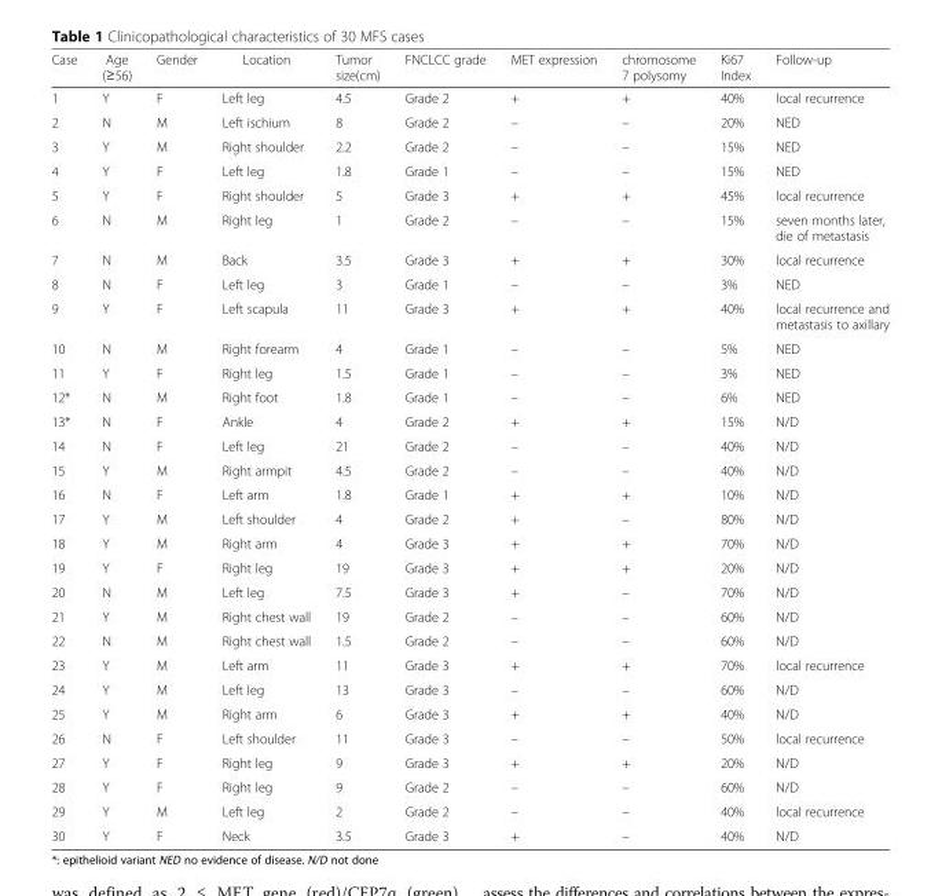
<table><thead><tr><td>Case</td><td>Age (≥56)</td><td>Gender</td><td>Location</td><td>Tumor size(cm)</td><td>FNCLCC grade</td><td>MET expression</td><td>chromosome 7 polysomy</td><td>Ki67 Index</td><td>Follow-up</td></tr></thead><tbody><tr><td>1</td><td>Y</td><td>F</td><td>Left leg</td><td>4.5</td><td>Grade 2</td><td>+</td><td>+</td><td>40%</td><td>local recurrence</td></tr><tr><td>2</td><td>N</td><td>M</td><td>Left ischium</td><td>8</td><td>Grade 2</td><td>–</td><td>–</td><td>20%</td><td>NED</td></tr><tr><td>3</td><td>Y</td><td>M</td><td>Right shoulder</td><td>2.2</td><td>Grade 2</td><td>–</td><td>–</td><td>15%</td><td>NED</td></tr><tr><td>4</td><td>Y</td><td>F</td><td>Left leg</td><td>1.8</td><td>Grade 1</td><td>–</td><td>–</td><td>15%</td><td>NED</td></tr><tr><td>5</td><td>Y</td><td>F</td><td>Right shoulder</td><td>5</td><td>Grade 3</td><td>+</td><td>+</td><td>45%</td><td>local recurrence</td></tr><tr><td>6</td><td>N</td><td>M</td><td>Right leg</td><td>1</td><td>Grade 2</td><td>–</td><td>–</td><td>15%</td><td>seven months later, die of metastasis</td></tr><tr><td>7</td><td>N</td><td>M</td><td>Back</td><td>3.5</td><td>Grade 3</td><td>+</td><td>+</td><td>30%</td><td>local recurrence</td></tr><tr><td>8</td><td>N</td><td>F</td><td>Left leg</td><td>3</td><td>Grade 1</td><td>–</td><td>–</td><td>3%</td><td>NED</td></tr><tr><td>9</td><td>Y</td><td>F</td><td>Left scapula</td><td>11</td><td>Grade 3</td><td>+</td><td>+</td><td>40%</td><td>local recurrence and metastasis to axillary</td></tr><tr><td>10</td><td>N</td><td>M</td><td>Right forearm</td><td>4</td><td>Grade 1</td><td>–</td><td>–</td><td>5%</td><td>NED</td></tr><tr><td>11</td><td>Y</td><td>F</td><td>Right leg</td><td>1.5</td><td>Grade 1</td><td>–</td><td>–</td><td>3%</td><td>NED</td></tr><tr><td>12*</td><td>N</td><td>M</td><td>Right foot</td><td>1.8</td><td>Grade 1</td><td>–</td><td>–</td><td>6%</td><td>NED</td></tr><tr><td>13*</td><td>N</td><td>F</td><td>Ankle</td><td>4</td><td>Grade 2</td><td>+</td><td>+</td><td>15%</td><td>N/D</td></tr><tr><td>14</td><td>N</td><td>F</td><td>Left leg</td><td>21</td><td>Grade 2</td><td>–</td><td>–</td><td>40%</td><td>N/D</td></tr><tr><td>15</td><td>Y</td><td>M</td><td>Right armpit</td><td>4.5</td><td>Grade 2</td><td>–</td><td>–</td><td>40%</td><td>N/D</td></tr><tr><td>16</td><td>N</td><td>F</td><td>Left arm</td><td>1.8</td><td>Grade 1</td><td>+</td><td>+</td><td>10%</td><td>N/D</td></tr><tr><td>17</td><td>Y</td><td>M</td><td>Left shoulder</td><td>4</td><td>Grade 2</td><td>+</td><td>–</td><td>80%</td><td>N/D</td></tr><tr><td>18</td><td>Y</td><td>M</td><td>Right arm</td><td>4</td><td>Grade 3</td><td>+</td><td>+</td><td>70%</td><td>N/D</td></tr><tr><td>19</td><td>Y</td><td>F</td><td>Right leg</td><td>19</td><td>Grade 3</td><td>+</td><td>+</td><td>20%</td><td>N/D</td></tr><tr><td>20</td><td>N</td><td>M</td><td>Left leg</td><td>7.5</td><td>Grade 3</td><td>+</td><td>–</td><td>70%</td><td>N/D</td></tr><tr><td>21</td><td>Y</td><td>M</td><td>Right chest wall</td><td>19</td><td>Grade 2</td><td>–</td><td>–</td><td>60%</td><td>N/D</td></tr><tr><td>22</td><td>N</td><td>M</td><td>Right chest wall</td><td>1.5</td><td>Grade 2</td><td>–</td><td>–</td><td>60%</td><td>N/D</td></tr><tr><td>23</td><td>Y</td><td>M</td><td>Left arm</td><td>11</td><td>Grade 3</td><td>+</td><td>+</td><td>70%</td><td>local recurrence</td></tr><tr><td>24</td><td>Y</td><td>M</td><td>Left leg</td><td>13</td><td>Grade 3</td><td>–</td><td>–</td><td>60%</td><td>N/D</td></tr><tr><td>25</td><td>Y</td><td>M</td><td>Right arm</td><td>6</td><td>Grade 3</td><td>+</td><td>+</td><td>40%</td><td>N/D</td></tr><tr><td>26</td><td>N</td><td>F</td><td>Left shoulder</td><td>11</td><td>Grade 3</td><td>–</td><td>–</td><td>50%</td><td>local recurrence</td></tr><tr><td>27</td><td>Y</td><td>F</td><td>Right leg</td><td>9</td><td>Grade 3</td><td>+</td><td>+</td><td>20%</td><td>N/D</td></tr><tr><td>28</td><td>Y</td><td>F</td><td>Right leg</td><td>9</td><td>Grade 2</td><td>–</td><td>–</td><td>60%</td><td>N/D</td></tr><tr><td>29</td><td>Y</td><td>M</td><td>Left leg</td><td>2</td><td>Grade 2</td><td>–</td><td>–</td><td>40%</td><td>local recurrence</td></tr><tr><td>30</td><td>Y</td><td>F</td><td>Neck</td><td>3.5</td><td>Grade 3</td><td>+</td><td>–</td><td>40%</td><td>N/D</td></tr></tbody></table>